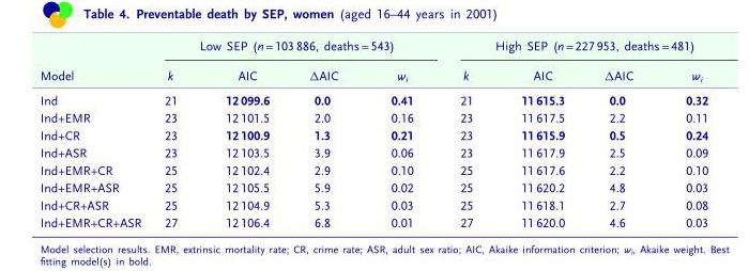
<table><thead><tr><td rowspan="2">Model</td><td colspan="4">Low SEP (n = 103 886, deaths = 543)</td><td colspan="4">High SEP (n = 227 953, deaths = 481)</td></tr><tr><td>k</td><td>AIC</td><td>ΔAIC</td><td>w<sub>i</sub></td><td>k</td><td>AIC</td><td>ΔAIC</td><td>w<sub>i</sub></td></tr></thead><tbody><tr><td>Ind</td><td>21</td><td>12 099.6</td><td>0.0</td><td>0.41</td><td>21</td><td>11 615.3</td><td>0.0</td><td>0.32</td></tr><tr><td>Ind+EMR</td><td>23</td><td>12 101.5</td><td>2.0</td><td>0.16</td><td>23</td><td>11 617.5</td><td>2.2</td><td>0.11</td></tr><tr><td>Ind+CR</td><td>23</td><td>12 100.9</td><td>1.3</td><td>0.21</td><td>23</td><td>11 615.9</td><td>0.5</td><td>0.24</td></tr><tr><td>Ind+ASR</td><td>23</td><td>12 103.5</td><td>3.9</td><td>0.06</td><td>23</td><td>11 617.9</td><td>2.5</td><td>0.09</td></tr><tr><td>Ind+EMR+CR</td><td>25</td><td>12 102.4</td><td>2.9</td><td>0.10</td><td>25</td><td>11 617.6</td><td>2.2</td><td>0.10</td></tr><tr><td>Ind+EMR+ASR</td><td>25</td><td>12 105.5</td><td>5.9</td><td>0.02</td><td>25</td><td>11 620.2</td><td>4.8</td><td>0.03</td></tr><tr><td>Ind+CR+ASR</td><td>25</td><td>12 104.9</td><td>5.3</td><td>0.03</td><td>25</td><td>11 618.1</td><td>2.7</td><td>0.08</td></tr><tr><td>Ind+EMR+CR+ASR</td><td>27</td><td>12 106.4</td><td>6.8</td><td>0.01</td><td>27</td><td>11 620.0</td><td>4.6</td><td>0.03</td></tr></tbody></table>